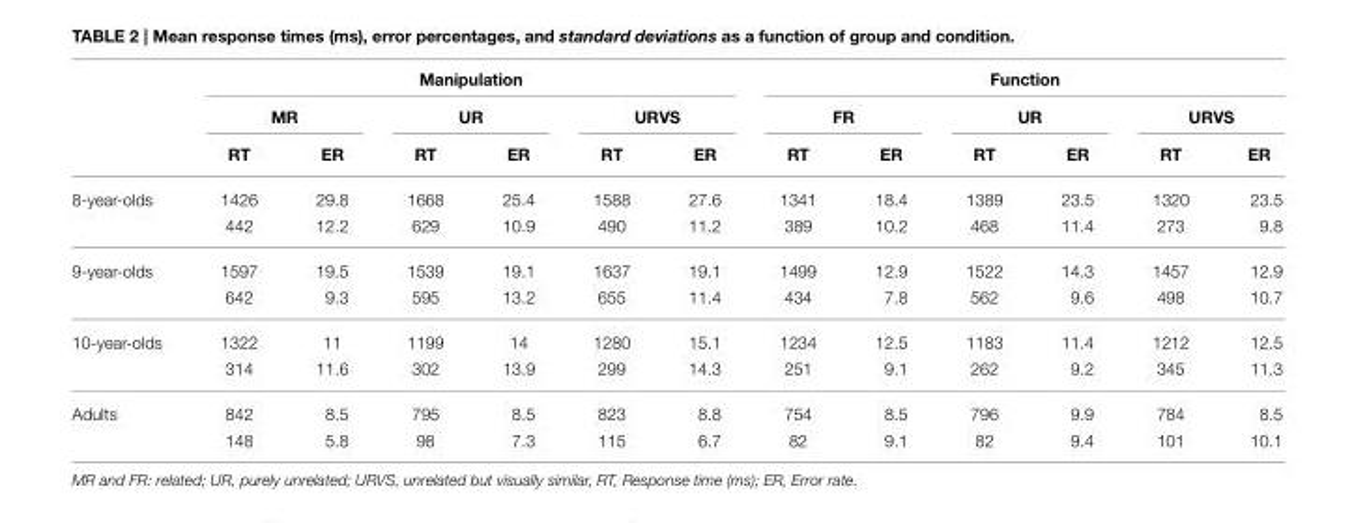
<table><thead><tr><td rowspan="3"></td><td colspan="6">Manipulation</td><td colspan="6">Function</td></tr><tr><td colspan="2">MR</td><td colspan="2">UR</td><td colspan="2">URVS</td><td colspan="2">FR</td><td colspan="2">UR</td><td colspan="2">URVS</td></tr><tr><td>RT</td><td>ER</td><td>RT</td><td>ER</td><td>RT</td><td>ER</td><td>RT</td><td>ER</td><td>RT</td><td>ER</td><td>RT</td><td>ER</td></tr></thead><tbody><tr><td rowspan="2">8-year-olds</td><td>1426</td><td>29.8</td><td>1668</td><td>25.4</td><td>1588</td><td>27.6</td><td>1341</td><td>18.4</td><td>1389</td><td>23.5</td><td>1320</td><td>23.5</td></tr><tr><td>442</td><td>12.2</td><td>629</td><td>10.9</td><td>490</td><td>11.2</td><td>389</td><td>10.2</td><td>468</td><td>11.4</td><td>273</td><td>9.8</td></tr><tr><td rowspan="2">9-year-olds</td><td>1597</td><td>19.5</td><td>1539</td><td>19.1</td><td>1637</td><td>19.1</td><td>1499</td><td>12.9</td><td>1522</td><td>14.3</td><td>1457</td><td>12.9</td></tr><tr><td>642</td><td>9.3</td><td>595</td><td>13.2</td><td>655</td><td>11.4</td><td>434</td><td>7.8</td><td>562</td><td>9.6</td><td>498</td><td>10.7</td></tr><tr><td rowspan="2">10-year-olds</td><td>1322</td><td>11</td><td>1199</td><td>14</td><td>1280</td><td>15.1</td><td>1234</td><td>12.5</td><td>1183</td><td>11.4</td><td>1212</td><td>12.5</td></tr><tr><td>314</td><td>11.6</td><td>302</td><td>13.9</td><td>299</td><td>14.3</td><td>251</td><td>9.1</td><td>262</td><td>9.2</td><td>345</td><td>11.3</td></tr><tr><td rowspan="2">Adults</td><td>842</td><td>8.5</td><td>795</td><td>8.5</td><td>823</td><td>8.8</td><td>754</td><td>8.5</td><td>796</td><td>9.9</td><td>784</td><td>8.5</td></tr><tr><td>148</td><td>5.8</td><td>98</td><td>7.3</td><td>115</td><td>6.7</td><td>82</td><td>9.1</td><td>82</td><td>9.4</td><td>101</td><td>10.1</td></tr></tbody></table>